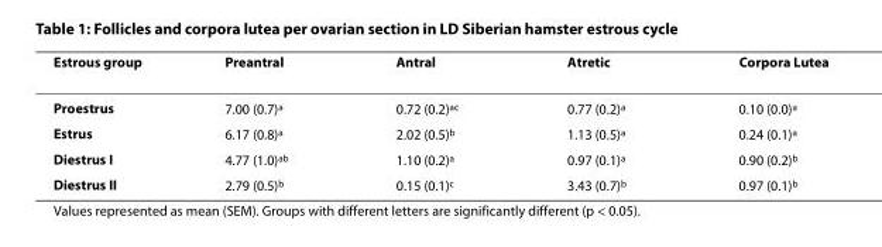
<table><thead><tr><td>Estrous group</td><td>Preantral</td><td>Antral</td><td>Atretic</td><td>Corpora Lutea</td></tr></thead><tbody><tr><td>Proestrus</td><td>7.00 (0.7)<sup>a</sup></td><td>0.72 (0.2)<sup>ac</sup></td><td>0.77 (0.2)<sup>a</sup></td><td>0.10 (0.0)<sup>a</sup></td></tr><tr><td>Estrus</td><td>6.17 (0.8)<sup>a</sup></td><td>2.02 (0.5)<sup>b</sup></td><td>1.13 (0.5)<sup>a</sup></td><td>0.24 (0.1)<sup>a</sup></td></tr><tr><td>Diestrus I</td><td>4.77 (1.0)<sup>ab</sup></td><td>1.10 (0.2)<sup>a</sup></td><td>0.97 (0.1)<sup>a</sup></td><td>0.90 (0.2)<sup>b</sup></td></tr><tr><td>Diestrus II</td><td>2.79 (0.5)<sup>b</sup></td><td>0.15 (0.1)<sup>c</sup></td><td>3.43 (0.7)<sup>b</sup></td><td>0.97 (0.1)<sup>b</sup></td></tr></tbody></table>